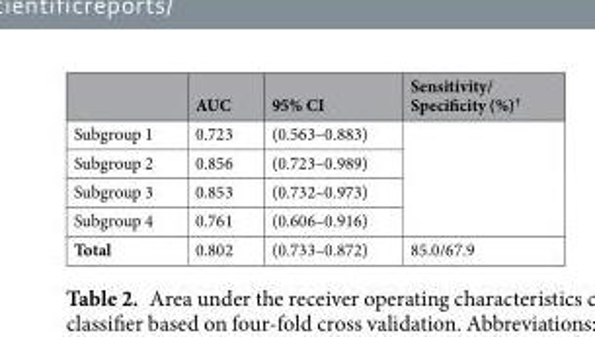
<table><thead><tr><td></td><td>AUC</td><td>95% CI</td><td>Sensitivity/ Specificity (%)<sup>†</sup></td></tr></thead><tbody><tr><td>Subgroup 1</td><td>0.723</td><td>(0.563–0.883)</td><td rowspan="4"></td></tr><tr><td>Subgroup 2</td><td>0.856</td><td>(0.723–0.989)</td></tr><tr><td>Subgroup 3</td><td>0.853</td><td>(0.732–0.973)</td></tr><tr><td>Subgroup 4</td><td>0.761</td><td>(0.606–0.916)</td></tr><tr><td>Total</td><td>0.802</td><td>(0.733–0.872)</td><td>85.0/67.9</td></tr></tbody></table>